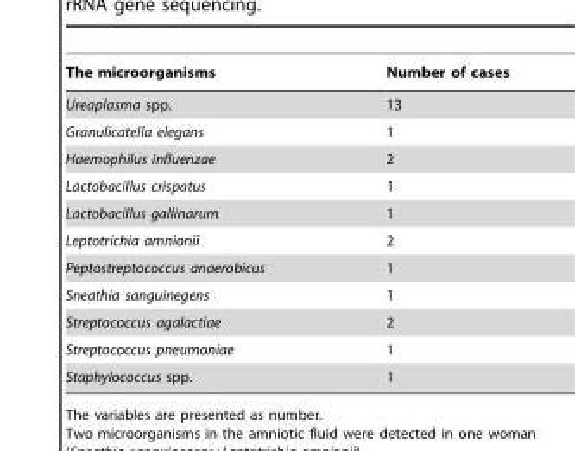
<table><thead><tr><td>The microorganisms</td><td>Number of cases</td></tr></thead><tbody><tr><td>Ureaplasma spp.</td><td>13</td></tr><tr><td>Granulicatella elegans</td><td>1</td></tr><tr><td>Haemophilus influenzae</td><td>2</td></tr><tr><td>Lactobacillus crispatus</td><td>1</td></tr><tr><td>Lactobacillus gallinarum</td><td>1</td></tr><tr><td>Leptotrichia amnionii</td><td>2</td></tr><tr><td>Peptostreptococcus anaerobicus</td><td>1</td></tr><tr><td>Sneathia sanguinegens</td><td>1</td></tr><tr><td>Streptococcus agalactiae</td><td>2</td></tr><tr><td>Streptococcus pneumoniae</td><td>1</td></tr><tr><td>Staphylococcus spp.</td><td>1</td></tr></tbody></table>